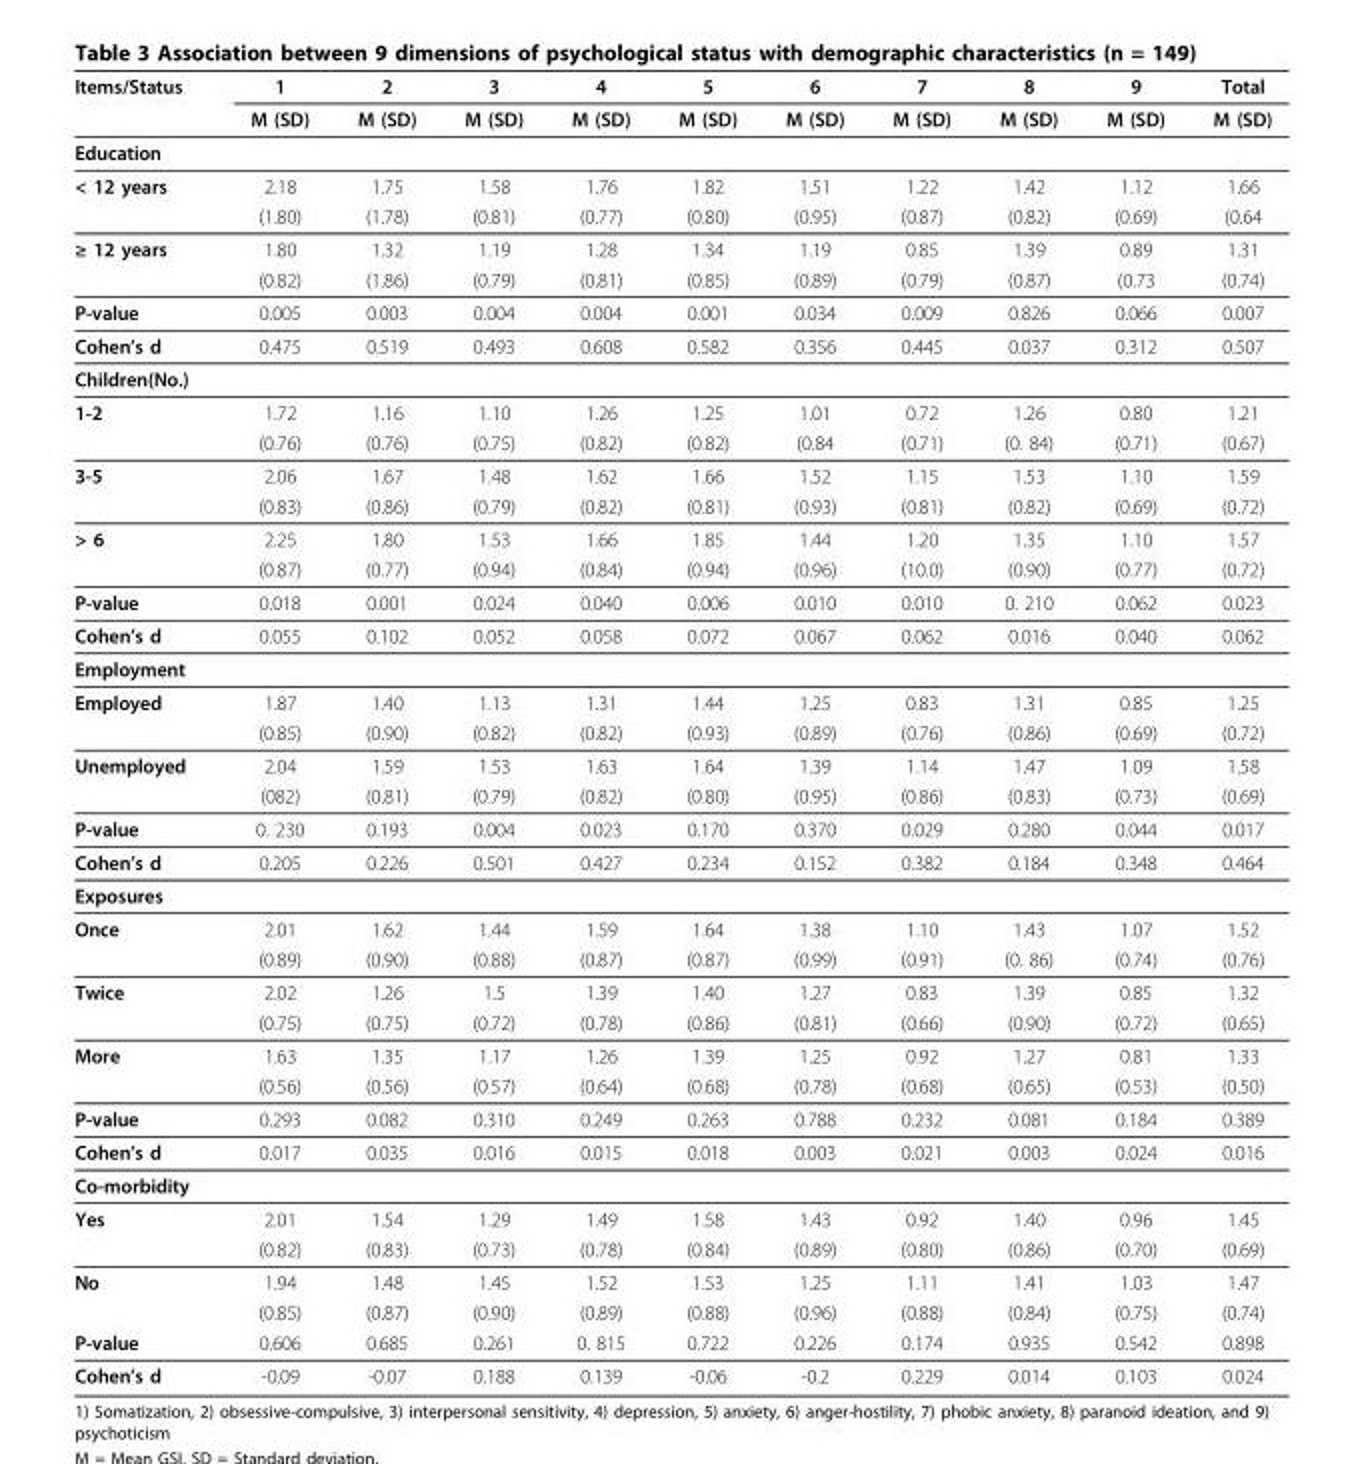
<table><thead><tr><td rowspan="2">Items/Status</td><td rowspan="2">1 M (SD)</td><td rowspan="2">2 M (SD)</td><td rowspan="2">3 M (SD)</td><td rowspan="2">4 M (SD)</td><td rowspan="2">5 M (SD)</td><td rowspan="2">6 M (SD)</td><td rowspan="2">7 M (SD)</td><td rowspan="2">8 M (SD)</td><td rowspan="2">9 M (SD)</td><td rowspan="2">Total M (SD)</td></tr><tr></tr></thead><tbody><tr><td colspan="11">Education</td></tr><tr><td rowspan="2">&lt; 12 years</td><td>2.18</td><td>1.75</td><td>1.58</td><td>1.76</td><td>1.82</td><td>1.51</td><td>1.22</td><td>1.42</td><td>1.12</td><td>1.66</td></tr><tr><td>(1.80)</td><td>(1.78)</td><td>(0.81)</td><td>(0.77)</td><td>(0.80)</td><td>(0.95)</td><td>(0.87)</td><td>(0.82)</td><td>(0.69)</td><td>(0.64</td></tr><tr><td rowspan="2">≥ 12 years</td><td>1.80</td><td>1.32</td><td>1.19</td><td>1.28</td><td>1.34</td><td>1.19</td><td>0.85</td><td>1.39</td><td>0.89</td><td>1.31</td></tr><tr><td>(0.82)</td><td>(1.86)</td><td>(0.79)</td><td>(0.81)</td><td>(0.85)</td><td>(0.89)</td><td>(0.79)</td><td>(0.87)</td><td>(0.73</td><td>(0.74)</td></tr><tr><td>P-value</td><td>0.005</td><td>0.003</td><td>0.004</td><td>0.004</td><td>0.001</td><td>0.034</td><td>0.009</td><td>0.826</td><td>0.066</td><td>0.007</td></tr><tr><td>Cohen’s d</td><td>0.475</td><td>0.519</td><td>0.493</td><td>0.608</td><td>0.582</td><td>0.356</td><td>0.445</td><td>0.037</td><td>0.312</td><td>0.507</td></tr><tr><td colspan="11">Children(No.)</td></tr><tr><td rowspan="2">1-2</td><td>1.72</td><td>1.16</td><td>1.10</td><td>1.26</td><td>1.25</td><td>1.01</td><td>0.72</td><td>1.26</td><td>0.80</td><td>1.21</td></tr><tr><td>(0.76)</td><td>(0.76)</td><td>(0.75)</td><td>(0.82)</td><td>(0.82)</td><td>(0.84</td><td>(0.71)</td><td>(0. 84)</td><td>(0.71)</td><td>(0.67)</td></tr><tr><td rowspan="2">3-5</td><td>2.06</td><td>1.67</td><td>1.48</td><td>1.62</td><td>1.66</td><td>1.52</td><td>1.15</td><td>1.53</td><td>1.10</td><td>1.59</td></tr><tr><td>(0.83)</td><td>(0.86)</td><td>(0.79)</td><td>(0.82)</td><td>(0.81)</td><td>(0.93)</td><td>(0.81)</td><td>(0.82)</td><td>(0.69)</td><td>(0.72)</td></tr><tr><td rowspan="2">&gt; 6</td><td>2.25</td><td>1.80</td><td>1.53</td><td>1.66</td><td>1.85</td><td>1.44</td><td>1.20</td><td>1.35</td><td>1.10</td><td>1.57</td></tr><tr><td>(0.87)</td><td>(0.77)</td><td>(0.94)</td><td>(0.84)</td><td>(0.94)</td><td>(0.96)</td><td>(10.0)</td><td>(0.90)</td><td>(0.77)</td><td>(0.72)</td></tr><tr><td>P-value</td><td>0.018</td><td>0.001</td><td>0.024</td><td>0.040</td><td>0.006</td><td>0.010</td><td>0.010</td><td>0. 210</td><td>0.062</td><td>0.023</td></tr><tr><td>Cohen’s d</td><td>0.055</td><td>0.102</td><td>0.052</td><td>0.058</td><td>0.072</td><td>0.067</td><td>0.062</td><td>0.016</td><td>0.040</td><td>0.062</td></tr><tr><td colspan="11">Employment</td></tr><tr><td rowspan="2">Employed</td><td>1.87</td><td>1.40</td><td>1.13</td><td>1.31</td><td>1.44</td><td>1.25</td><td>0.83</td><td>1.31</td><td>0.85</td><td>1.25</td></tr><tr><td>(0.85)</td><td>(0.90)</td><td>(0.82)</td><td>(0.82)</td><td>(0.93)</td><td>(0.89)</td><td>(0.76)</td><td>(0.86)</td><td>(0.69)</td><td>(0.72)</td></tr><tr><td rowspan="2">Unemployed</td><td>2.04</td><td>1.59</td><td>1.53</td><td>1.63</td><td>1.64</td><td>1.39</td><td>1.14</td><td>1.47</td><td>1.09</td><td>1.58</td></tr><tr><td>(082)</td><td>(0.81)</td><td>(0.79)</td><td>(0.82)</td><td>(0.80)</td><td>(0.95)</td><td>(0.86)</td><td>(0.83)</td><td>(0.73)</td><td>(0.69)</td></tr><tr><td>P-value</td><td>0. 230</td><td>0.193</td><td>0.004</td><td>0.023</td><td>0.170</td><td>0.370</td><td>0.029</td><td>0.280</td><td>0.044</td><td>0.017</td></tr><tr><td>Cohen’s d</td><td>0.205</td><td>0.226</td><td>0.501</td><td>0.427</td><td>0.234</td><td>0.152</td><td>0.382</td><td>0.184</td><td>0.348</td><td>0.464</td></tr><tr><td colspan="11">Exposures</td></tr><tr><td rowspan="2">Once</td><td>2.01</td><td>1.62</td><td>1.44</td><td>1.59</td><td>1.64</td><td>1.38</td><td>1.10</td><td>1.43</td><td>1.07</td><td>1.52</td></tr><tr><td>(0.89)</td><td>(0.90)</td><td>(0.88)</td><td>(0.87)</td><td>(0.87)</td><td>(0.99)</td><td>(0.91)</td><td>(0. 86)</td><td>(0.74)</td><td>(0.76)</td></tr><tr><td rowspan="2">Twice</td><td>2.02</td><td>1.26</td><td>1.5</td><td>1.39</td><td>1.40</td><td>1.27</td><td>0.83</td><td>1.39</td><td>0.85</td><td>1.32</td></tr><tr><td>(0.75)</td><td>(0.75)</td><td>(0.72)</td><td>(0.78)</td><td>(0.86)</td><td>(0.81)</td><td>(0.66)</td><td>(0.90)</td><td>(0.72)</td><td>(0.65)</td></tr><tr><td rowspan="2">More</td><td>1.63</td><td>1.35</td><td>1.17</td><td>1.26</td><td>1.39</td><td>1.25</td><td>0.92</td><td>1.27</td><td>0.81</td><td>1.33</td></tr><tr><td>(0.56)</td><td>(0.56)</td><td>(0.57)</td><td>(0.64)</td><td>(0.68)</td><td>(0.78)</td><td>(0.68)</td><td>(0.65)</td><td>(0.53)</td><td>(0.50)</td></tr><tr><td>P-value</td><td>0.293</td><td>0.082</td><td>0.310</td><td>0.249</td><td>0.263</td><td>0.788</td><td>0.232</td><td>0.081</td><td>0.184</td><td>0.389</td></tr><tr><td>Cohen’s d</td><td>0.017</td><td>0.035</td><td>0.016</td><td>0.015</td><td>0.018</td><td>0.003</td><td>0.021</td><td>0.003</td><td>0.024</td><td>0.016</td></tr><tr><td colspan="11">Co-morbidity</td></tr><tr><td rowspan="2">Yes</td><td>2.01</td><td>1.54</td><td>1.29</td><td>1.49</td><td>1.58</td><td>1.43</td><td>0.92</td><td>1.40</td><td>0.96</td><td>1.45</td></tr><tr><td>(0.82)</td><td>(0.83)</td><td>(0.73)</td><td>(0.78)</td><td>(0.84)</td><td>(0.89)</td><td>(0.80)</td><td>(0.86)</td><td>(0.70)</td><td>(0.69)</td></tr><tr><td rowspan="2">No</td><td>1.94</td><td>1.48</td><td>1.45</td><td>1.52</td><td>1.53</td><td>1.25</td><td>1.11</td><td>1.41</td><td>1.03</td><td>1.47</td></tr><tr><td>(0.85)</td><td>(0.87)</td><td>(0.90)</td><td>(0.89)</td><td>(0.88)</td><td>(0.96)</td><td>(0.88)</td><td>(0.84)</td><td>(0.75)</td><td>(0.74)</td></tr><tr><td>P-value</td><td>0.606</td><td>0.685</td><td>0.261</td><td>0. 815</td><td>0.722</td><td>0.226</td><td>0.174</td><td>0.935</td><td>0.542</td><td>0.898</td></tr><tr><td>Cohen’s d</td><td>-0.09</td><td>-0.07</td><td>0.188</td><td>0.139</td><td>-0.06</td><td>-0.2</td><td>0.229</td><td>0.014</td><td>0.103</td><td>0.024</td></tr></tbody></table>